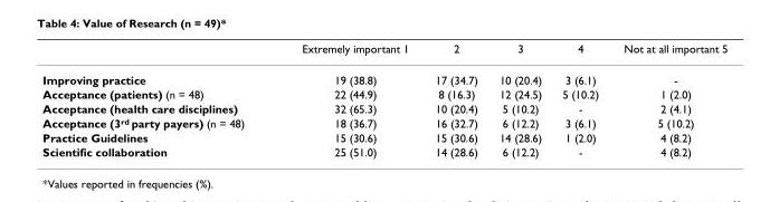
<table><thead><tr><td></td><td>Extremely important 1</td><td>2</td><td>3</td><td>4</td><td>Not at all important 5</td></tr></thead><tbody><tr><td>Improving practice</td><td>19 (38.8)</td><td>17 (34.7)</td><td>10 (20.4)</td><td>3 (6.1)</td><td>-</td></tr><tr><td>Acceptance (patients) (n = 48)</td><td>22 (44.9)</td><td>8 (16.3)</td><td>12 (24.5)</td><td>5 (10.2)</td><td>1 (2.0)</td></tr><tr><td>Acceptance (health care disciplines)</td><td>32 (65.3)</td><td>10 (20.4)</td><td>5 (10.2)</td><td>-</td><td>2 (4.1)</td></tr><tr><td>Acceptance (3<sup>rd</sup> party payers) (n = 48)</td><td>18 (36.7)</td><td>16 (32.7)</td><td>6 (12.2)</td><td>3 (6.1)</td><td>5 (10.2)</td></tr><tr><td>Practice Guidelines</td><td>15 (30.6)</td><td>15 (30.6)</td><td>14 (28.6)</td><td>1 (2.0)</td><td>4 (8.2)</td></tr><tr><td>Scientific collaboration</td><td>25 (51.0)</td><td>14 (28.6)</td><td>6 (12.2)</td><td>-</td><td>4 (8.2)</td></tr></tbody></table>